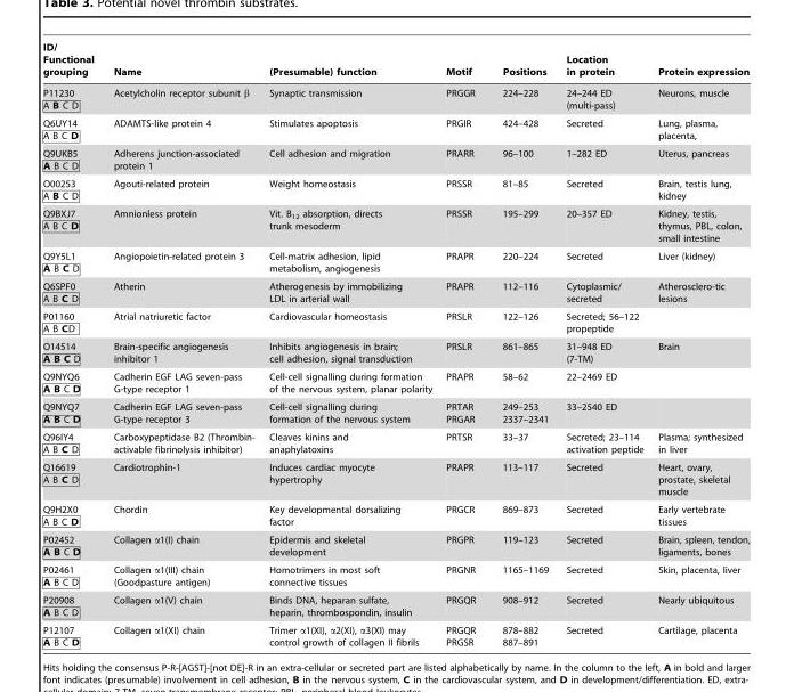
<table><thead><tr><td>ID/ Functional grouping</td><td>Name</td><td>(Presumable) function</td><td>Motif</td><td>Positions</td><td>Location in protein</td><td>Protein expression</td></tr></thead><tbody><tr><td>P11230 A B C D</td><td>Acetylcholin receptor subunit β</td><td>Synaptic transmission</td><td>PRGGR</td><td>224–228</td><td>24–244 ED (multi-pass)</td><td>Neurons, muscle</td></tr><tr><td>Q6UY14 A B C D</td><td>ADAMTS-like protein 4</td><td>Stimulates apoptosis</td><td>PRGIR</td><td>424–428</td><td>Secreted</td><td>Lung, plasma, placenta,</td></tr><tr><td>Q9UKB5 A B C D</td><td>Adherens junction-associated protein 1</td><td>Cell adhesion and migration</td><td>PRARR</td><td>96–100</td><td>1–282 ED</td><td>Uterus, pancreas</td></tr><tr><td>O00253 A B C D</td><td>Agouti-related protein</td><td>Weight homeostasis</td><td>PRSSR</td><td>81–85</td><td>Secreted</td><td>Brain, testis lung, kidney</td></tr><tr><td>Q9BXJ7 A B C D</td><td>Amnionless protein</td><td>Vit. B<sub>12</sub> absorption, directs trunk mesoderm</td><td>PRSSR</td><td>195–299</td><td>20–357 ED</td><td>Kidney, testis, thymus, PBL, colon, small intestine</td></tr><tr><td>Q9Y5L1 A B C D</td><td>Angiopoietin-related protein 3</td><td>Cell-matrix adhesion, lipid metabolism, angiogenesis</td><td>PRAPR</td><td>220–224</td><td>Secreted</td><td>Liver (kidney)</td></tr><tr><td>Q6SPF0 A B C D</td><td>Atherin</td><td>Atherogenesis by immobilizing LDL in arterial wall</td><td>PRAPR</td><td>112–116</td><td>Cytoplasmic/ secreted</td><td>Atherosclero-tic lesions</td></tr><tr><td>P01160 A B CD</td><td>Atrial natriuretic factor</td><td>Cardiovascular homeostasis</td><td>PRSLR</td><td>122–126</td><td>Secreted; 56–122 propeptide</td><td></td></tr><tr><td>O14514 A B C D</td><td>Brain-specific angiogenesis inhibitor 1</td><td>Inhibits angiogenesis in brain; cell adhesion, signal transduction</td><td>PRSLR</td><td>861–865</td><td>31–948 ED (7-TM)</td><td>Brain</td></tr><tr><td>Q9NYQ6 A B C D</td><td>Cadherin EGF LAG seven-pass G-type receptor 1</td><td>Cell-cell signalling during formation of the nervous system, planar polarity</td><td>PRAPR</td><td>58–62</td><td>22–2469 ED</td><td></td></tr><tr><td>Q9NYQ7 A B C D</td><td>Cadherin EGF LAG seven-pass G-type receptor 3</td><td>Cell-cell signalling during formation of the nervous system</td><td>PRTAR PRGAR</td><td>249–253 2337–2341</td><td>33–2540 ED</td><td></td></tr><tr><td>Q96IY4 A B C D</td><td>Carboxypeptidase B2 (Thrombin- activable fibrinolysis inhibitor)</td><td>Cleaves kinins and anaphylatoxins</td><td>PRTSR</td><td>33–37</td><td>Secreted; 23–114 activation peptide</td><td>Plasma; synthesized in liver</td></tr><tr><td>Q16619 A B C D</td><td>Cardiotrophin-1</td><td>Induces cardiac myocyte hypertrophy</td><td>PRAPR</td><td>113–117</td><td>Secreted</td><td>Heart, ovary, prostate, skeletal muscle</td></tr><tr><td>Q9H2X0 A B C D</td><td>Chordin</td><td>Key developmental dorsalizing factor</td><td>PRGCR</td><td>869–873</td><td>Secreted</td><td>Early vertebrate tissues</td></tr><tr><td>P02452 A B C D</td><td>Collagen α1(I) chain</td><td>Epidermis and skeletal development</td><td>PRGPR</td><td>119–123</td><td>Secreted</td><td>Brain, spleen, tendon, ligaments, bones</td></tr><tr><td>P02461 A B C D</td><td>Collagen α1(III) chain (Goodpasture antigen)</td><td>Homotrimers in most soft connective tissues</td><td>PRGNR</td><td>1165–1169</td><td>Secreted</td><td>Skin, placenta, liver</td></tr><tr><td>P20908 A B C D</td><td>Collagen α1(V) chain</td><td>Binds DNA, heparan sulfate, heparin, thrombospondin, insulin</td><td>PRGQR</td><td>908–912</td><td>Secreted</td><td>Nearly ubiquitous</td></tr><tr><td>P12107 A B C D</td><td>Collagen α1(XI) chain</td><td>Trimer α1(XI), α2(XI), α3(XI) may control growth of collagen II fibrils</td><td>PRGQR PRGSR</td><td>878–882 887–891</td><td>Secreted</td><td>Cartilage, placenta</td></tr></tbody></table>